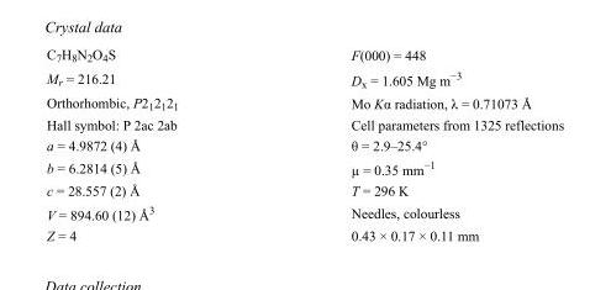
<table><tbody><tr><td>C<sub>7</sub>H<sub>8</sub>N<sub>2</sub>O<sub>4</sub>S</td><td>F(000) = 448</td></tr><tr><td>M<sub>r</sub> = 216.21</td><td>D<sub>x</sub> = 1.605 Mg m<sup>−3</sup></td></tr><tr><td>Orthorhombic, P2<sub>1</sub>2<sub>1</sub>2<sub>1</sub></td><td>Mo Kα radiation, λ = 0.71073 Å</td></tr><tr><td>Hall symbol: P 2ac 2ab</td><td>Cell parameters from 1325 reflections</td></tr><tr><td>a = 4.9872 (4) Å</td><td>θ = 2.9–25.4°</td></tr><tr><td>b = 6.2814 (5) Å</td><td>µ = 0.35 mm<sup>−1</sup></td></tr><tr><td>c = 28.557 (2) Å</td><td>T = 296 K</td></tr><tr><td>V = 894.60 (12) Å<sup>3</sup></td><td>Needles, colourless</td></tr><tr><td>Z = 4</td><td>0.43 × 0.17 × 0.11 mm</td></tr></tbody></table>